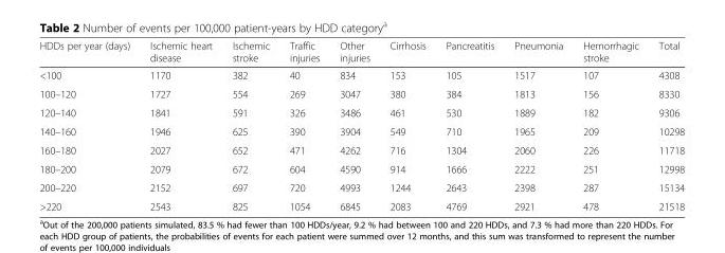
<table><thead><tr><td>HDDs per year (days)</td><td>Ischemic heart disease</td><td>Ischemic stroke</td><td>Traffic injuries</td><td>Other injuries</td><td>Cirrhosis</td><td>Pancreatitis</td><td>Pneumonia</td><td>Hemorrhagic stroke</td><td>Total</td></tr></thead><tbody><tr><td>&lt;100</td><td>1170</td><td>382</td><td>40</td><td>834</td><td>153</td><td>105</td><td>1517</td><td>107</td><td>4308</td></tr><tr><td>100–120</td><td>1727</td><td>554</td><td>269</td><td>3047</td><td>380</td><td>384</td><td>1813</td><td>156</td><td>8330</td></tr><tr><td>120–140</td><td>1841</td><td>591</td><td>326</td><td>3486</td><td>461</td><td>530</td><td>1889</td><td>182</td><td>9306</td></tr><tr><td>140–160</td><td>1946</td><td>625</td><td>390</td><td>3904</td><td>549</td><td>710</td><td>1965</td><td>209</td><td>10298</td></tr><tr><td>160–180</td><td>2027</td><td>652</td><td>471</td><td>4262</td><td>716</td><td>1304</td><td>2060</td><td>226</td><td>11718</td></tr><tr><td>180–200</td><td>2079</td><td>672</td><td>604</td><td>4590</td><td>914</td><td>1666</td><td>2222</td><td>251</td><td>12998</td></tr><tr><td>200–220</td><td>2152</td><td>697</td><td>720</td><td>4993</td><td>1244</td><td>2643</td><td>2398</td><td>287</td><td>15134</td></tr><tr><td>&gt;220</td><td>2543</td><td>825</td><td>1054</td><td>6845</td><td>2083</td><td>4769</td><td>2921</td><td>478</td><td>21518</td></tr></tbody></table>